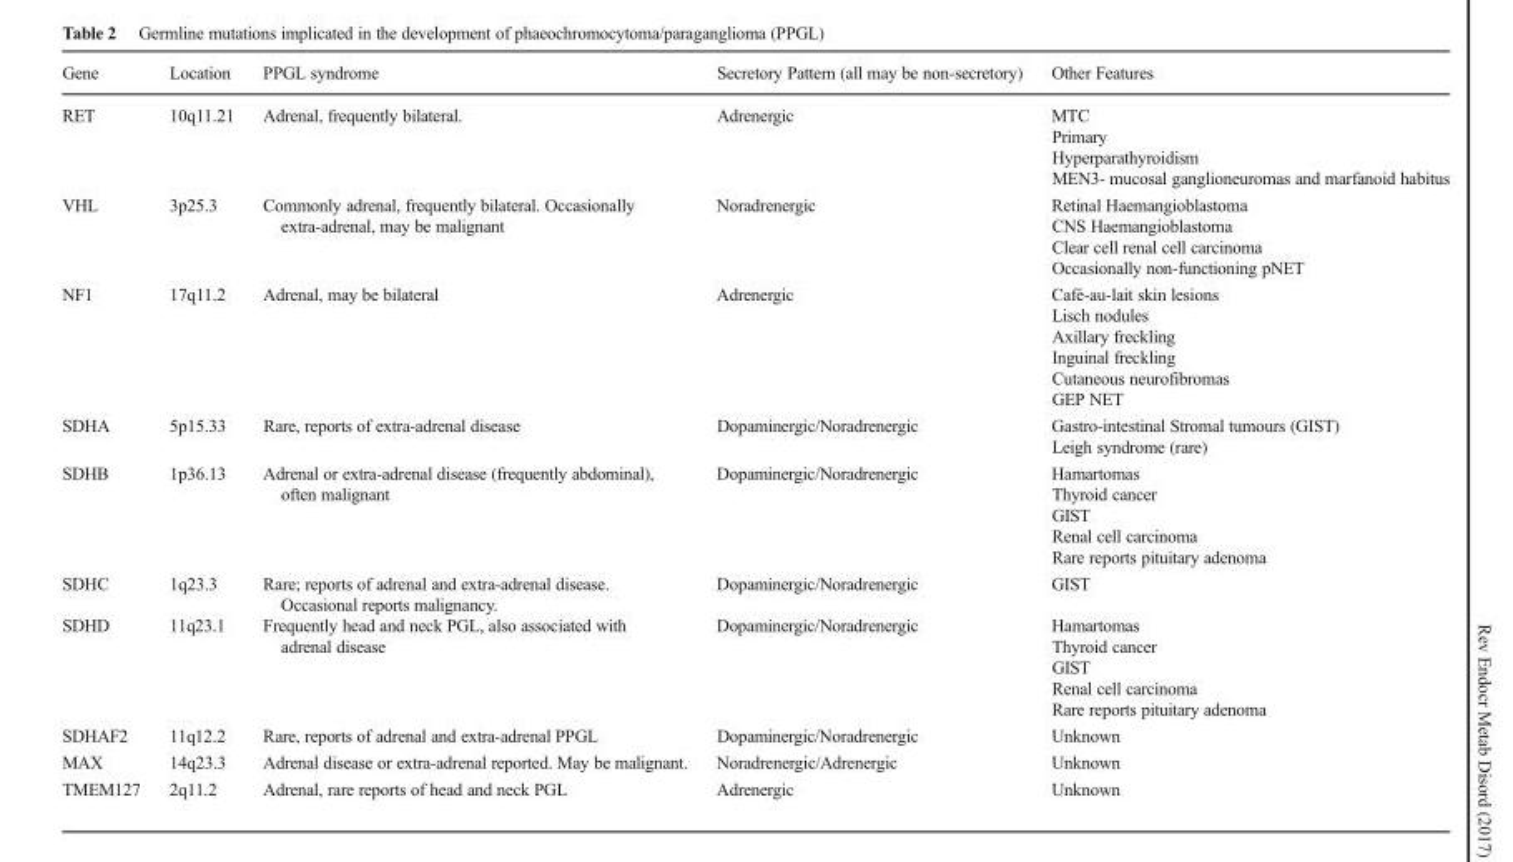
<table><thead><tr><td>Gene</td><td>Location</td><td>PPGL syndrome</td><td>Secretory Pattern (all may be non-secretory)</td><td>Other Features</td></tr></thead><tbody><tr><td>RET</td><td>10q11.21</td><td>Adrenal, frequently bilateral.</td><td>Adrenergic</td><td>MTC Primary Hyperparathyroidism MEN3- mucosal ganglioneuromas and marfanoid habitus</td></tr><tr><td>VHL</td><td>3p25.3</td><td>Commonly adrenal, frequently bilateral. Occasionally extra-adrenal, may be malignant</td><td>Noradrenergic</td><td>Retinal Haemangioblastoma CNS Haemangioblastoma Clear cell renal cell carcinoma Occasionally non-functioning pNET</td></tr><tr><td>NF1</td><td>17q11.2</td><td>Adrenal, may be bilateral</td><td>Adrenergic</td><td>Café-au-lait skin lesions Lisch nodules Axillary freckling Inguinal freckling Cutaneous neurofibromas GEP NET</td></tr><tr><td>SDHA</td><td>5p15.33</td><td>Rare, reports of extra-adrenal disease</td><td>Dopaminergic/Noradrenergic</td><td>Gastro-intestinal Stromal tumours (GIST) Leigh syndrome (rare)</td></tr><tr><td>SDHB</td><td>1p36.13</td><td>Adrenal or extra-adrenal disease (frequently abdominal), often malignant</td><td>Dopaminergic/Noradrenergic</td><td>Hamartomas Thyroid cancer GIST Renal cell carcinoma Rare reports pituitary adenoma</td></tr><tr><td>SDHC</td><td>1q23.3</td><td>Rare; reports of adrenal and extra-adrenal disease. Occasional reports malignancy.</td><td>Dopaminergic/Noradrenergic</td><td>GIST</td></tr><tr><td>SDHD</td><td>11q23.1</td><td>Frequently head and neck PGL, also associated with adrenal disease</td><td>Dopaminergic/Noradrenergic</td><td>Hamartomas Thyroid cancer GIST Renal cell carcinoma Rare reports pituitary adenoma</td></tr><tr><td>SDHAF2</td><td>11q12.2</td><td>Rare, reports of adrenal and extra-adrenal PPGL</td><td>Dopaminergic/Noradrenergic</td><td>Unknown</td></tr><tr><td>MAX</td><td>14q23.3</td><td>Adrenal disease or extra-adrenal reported. May be malignant.</td><td>Noradrenergic/Adrenergic</td><td>Unknown</td></tr><tr><td>TMEM127</td><td>2q11.2</td><td>Adrenal, rare reports of head and neck PGL</td><td>Adrenergic</td><td>Unknown</td></tr></tbody></table>